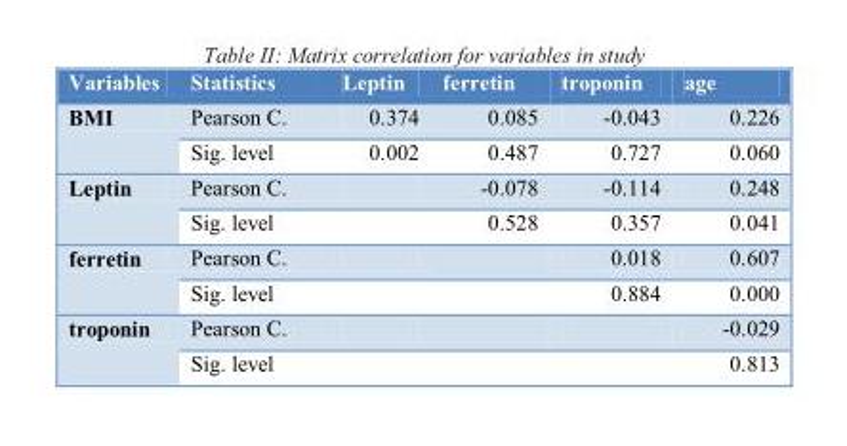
<table><thead><tr><td>Variables</td><td>Statistics</td><td>Leptin</td><td>ferretin</td><td>troponin</td><td>age</td></tr></thead><tbody><tr><td rowspan="2">BMI</td><td>Pearson C.</td><td>0.374</td><td>0.085</td><td>-0.043</td><td>0.226</td></tr><tr><td>Sig. level</td><td>0.002</td><td>0.487</td><td>0.727</td><td>0.060</td></tr><tr><td rowspan="2">Leptin</td><td>Pearson C.</td><td></td><td>-0.078</td><td>-0.114</td><td>0.248</td></tr><tr><td>Sig. level</td><td></td><td>0.528</td><td>0.357</td><td>0.041</td></tr><tr><td rowspan="2">ferretin</td><td>Pearson C.</td><td></td><td></td><td>0.018</td><td>0.607</td></tr><tr><td>Sig. level</td><td></td><td></td><td>0.884</td><td>0.000</td></tr><tr><td rowspan="2">troponin</td><td>Pearson C.</td><td></td><td></td><td></td><td>-0.029</td></tr><tr><td>Sig. level</td><td></td><td></td><td></td><td>0.813</td></tr></tbody></table>